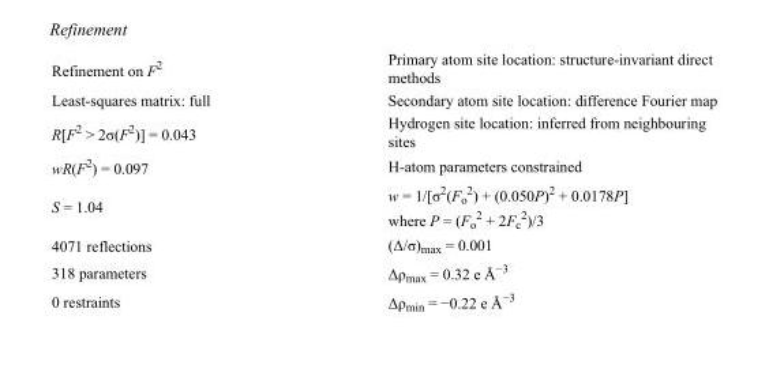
<table><tbody><tr><td>Refinement on F<sup>2</sup></td><td>Primary atom site location: structure-invariant direct methods</td></tr><tr><td>Least-squares matrix: full</td><td>Secondary atom site location: difference Fourier map</td></tr><tr><td>R[F<sup>2</sup> &gt; 2σ(F<sup>2</sup>)] = 0.043</td><td>Hydrogen site location: inferred from neighbouring sites</td></tr><tr><td>wR(F<sup>2</sup>) = 0.097</td><td>H-atom parameters constrained</td></tr><tr><td>S = 1.04</td><td>w = 1/[σ<sup>2</sup>(F<sub>o</sub> <sup>2</sup>) + (0.050P)<sup>2</sup> + 0.0178P] where P = (F<sub>o</sub> <sup>2</sup> + 2F<sub>c</sub> <sup>2</sup>)/3</td></tr><tr><td>4071 reflections</td><td>(Δ/σ)<sub>max</sub> = 0.001</td></tr><tr><td>318 parameters</td><td>Δρ<sub>max</sub> = 0.32 e Å<sup>−3</sup></td></tr><tr><td>0 restraints</td><td>Δρ<sub>min</sub> = −0.22 e Å<sup>−3</sup></td></tr></tbody></table>